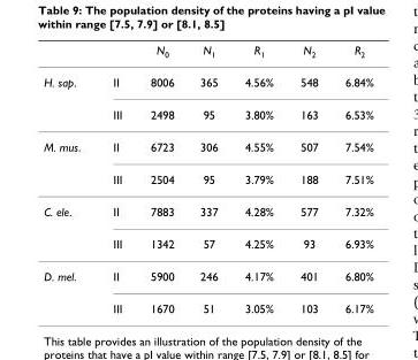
<table><thead><tr><td></td><td></td><td>N<sub>0</sub></td><td>N<sub>1</sub></td><td>R<sub>1</sub></td><td>N<sub>2</sub></td><td>R<sub>2</sub></td></tr></thead><tbody><tr><td rowspan="2">H. sap.</td><td>II</td><td>8006</td><td>365</td><td>4.56%</td><td>548</td><td>6.84%</td></tr><tr><td>III</td><td>2498</td><td>95</td><td>3.80%</td><td>163</td><td>6.53%</td></tr><tr><td rowspan="2">M. mus.</td><td>II</td><td>6723</td><td>306</td><td>4.55%</td><td>507</td><td>7.54%</td></tr><tr><td>III</td><td>2504</td><td>95</td><td>3.79%</td><td>188</td><td>7.51%</td></tr><tr><td rowspan="2">C. ele.</td><td>II</td><td>7883</td><td>337</td><td>4.28%</td><td>577</td><td>7.32%</td></tr><tr><td>III</td><td>1342</td><td>57</td><td>4.25%</td><td>93</td><td>6.93%</td></tr><tr><td rowspan="2">D. mel.</td><td>II</td><td>5900</td><td>246</td><td>4.17%</td><td>401</td><td>6.80%</td></tr><tr><td>III</td><td>1670</td><td>51</td><td>3.05%</td><td>103</td><td>6.17%</td></tr></tbody></table>